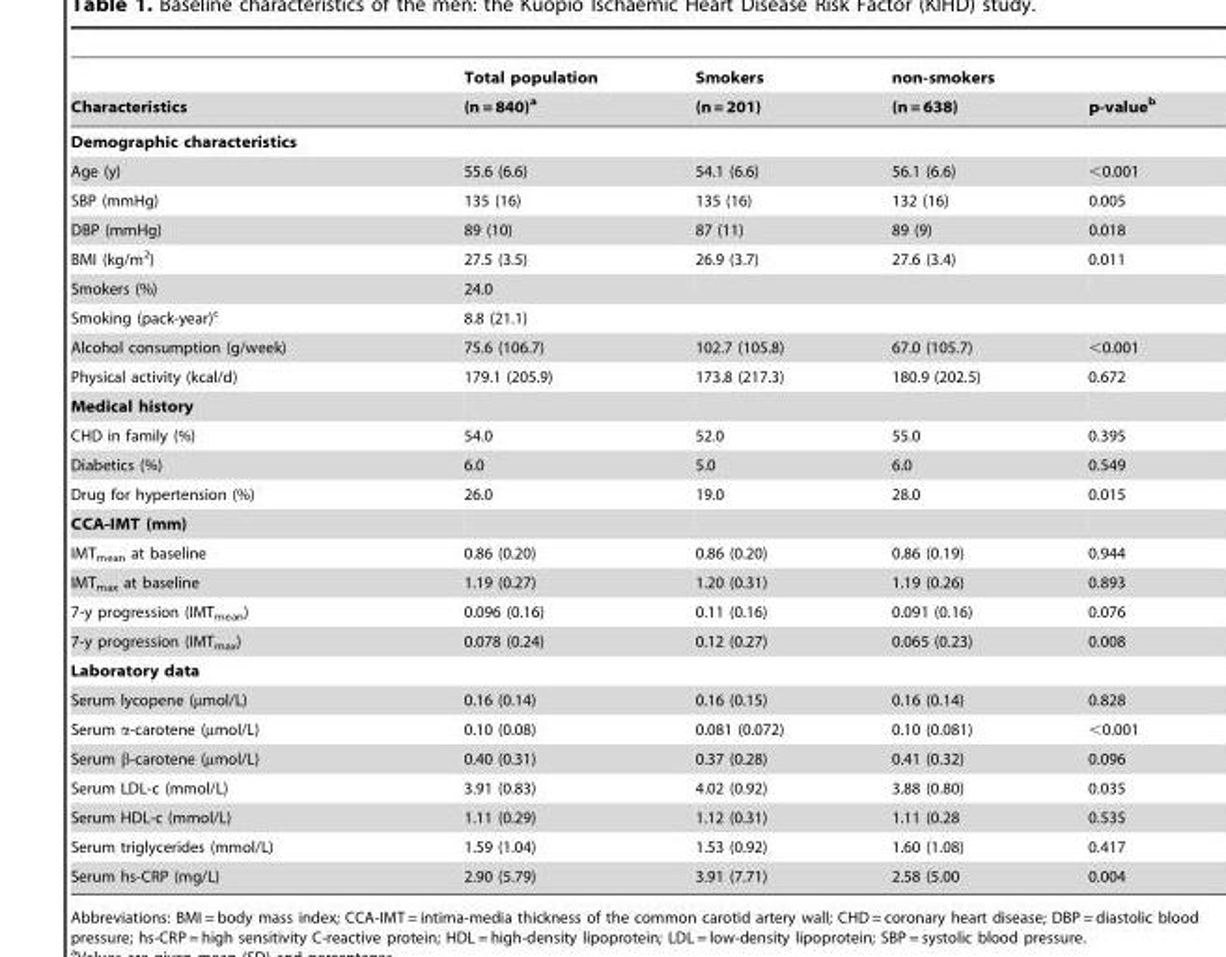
<table><thead><tr><td rowspan="2">Characteristics</td><td rowspan="2">Total population (n = 840)<sup>a</sup></td><td rowspan="2">Smokers (n = 201)</td><td rowspan="2">non-smokers (n = 638)</td><td rowspan="2">p-value<sup>b</sup></td></tr><tr></tr></thead><tbody><tr><td colspan="5">Demographic characteristics</td></tr><tr><td>Age (y)</td><td>55.6 (6.6)</td><td>54.1 (6.6)</td><td>56.1 (6.6)</td><td>&lt;0.001</td></tr><tr><td>SBP (mmHg)</td><td>135 (16)</td><td>135 (16)</td><td>132 (16)</td><td>0.005</td></tr><tr><td>DBP (mmHg)</td><td>89 (10)</td><td>87 (11)</td><td>89 (9)</td><td>0.018</td></tr><tr><td>BMI (kg/m<sup>2</sup>)</td><td>27.5 (3.5)</td><td>26.9 (3.7)</td><td>27.6 (3.4)</td><td>0.011</td></tr><tr><td>Smokers (%)</td><td>24.0</td><td></td><td></td><td></td></tr><tr><td>Smoking (pack-year)<sup>c</sup></td><td>8.8 (21.1)</td><td></td><td></td><td></td></tr><tr><td>Alcohol consumption (g/week)</td><td>75.6 (106.7)</td><td>102.7 (105.8)</td><td>67.0 (105.7)</td><td>&lt;0.001</td></tr><tr><td>Physical activity (kcal/d)</td><td>179.1 (205.9)</td><td>173.8 (217.3)</td><td>180.9 (202.5)</td><td>0.672</td></tr><tr><td colspan="5">Medical history</td></tr><tr><td>CHD in family (%)</td><td>54.0</td><td>52.0</td><td>55.0</td><td>0.395</td></tr><tr><td>Diabetics (%)</td><td>6.0</td><td>5.0</td><td>6.0</td><td>0.549</td></tr><tr><td>Drug for hypertension (%)</td><td>26.0</td><td>19.0</td><td>28.0</td><td>0.015</td></tr><tr><td colspan="5">CCA-IMT (mm)</td></tr><tr><td>IMT<sub>mean</sub> at baseline</td><td>0.86 (0.20)</td><td>0.86 (0.20)</td><td>0.86 (0.19)</td><td>0.944</td></tr><tr><td>IMT<sub>max</sub> at baseline</td><td>1.19 (0.27)</td><td>1.20 (0.31)</td><td>1.19 (0.26)</td><td>0.893</td></tr><tr><td>7-y progression (IMT<sub>mean</sub>)</td><td>0.096 (0.16)</td><td>0.11 (0.16)</td><td>0.091 (0.16)</td><td>0.076</td></tr><tr><td>7-y progression (IMT<sub>max</sub>)</td><td>0.078 (0.24)</td><td>0.12 (0.27)</td><td>0.065 (0.23)</td><td>0.008</td></tr><tr><td colspan="5">Laboratory data</td></tr><tr><td>Serum lycopene (µmol/L)</td><td>0.16 (0.14)</td><td>0.16 (0.15)</td><td>0.16 (0.14)</td><td>0.828</td></tr><tr><td>Serum α-carotene (µmol/L)</td><td>0.10 (0.08)</td><td>0.081 (0.072)</td><td>0.10 (0.081)</td><td>&lt;0.001</td></tr><tr><td>Serum β-carotene (µmol/L)</td><td>0.40 (0.31)</td><td>0.37 (0.28)</td><td>0.41 (0.32)</td><td>0.096</td></tr><tr><td>Serum LDL-c (mmol/L)</td><td>3.91 (0.83)</td><td>4.02 (0.92)</td><td>3.88 (0.80)</td><td>0.035</td></tr><tr><td>Serum HDL-c (mmol/L)</td><td>1.11 (0.29)</td><td>1.12 (0.31)</td><td>1.11 (0.28</td><td>0.535</td></tr><tr><td>Serum triglycerides (mmol/L)</td><td>1.59 (1.04)</td><td>1.53 (0.92)</td><td>1.60 (1.08)</td><td>0.417</td></tr><tr><td>Serum hs-CRP (mg/L)</td><td>2.90 (5.79)</td><td>3.91 (7.71)</td><td>2.58 (5.00</td><td>0.004</td></tr></tbody></table>